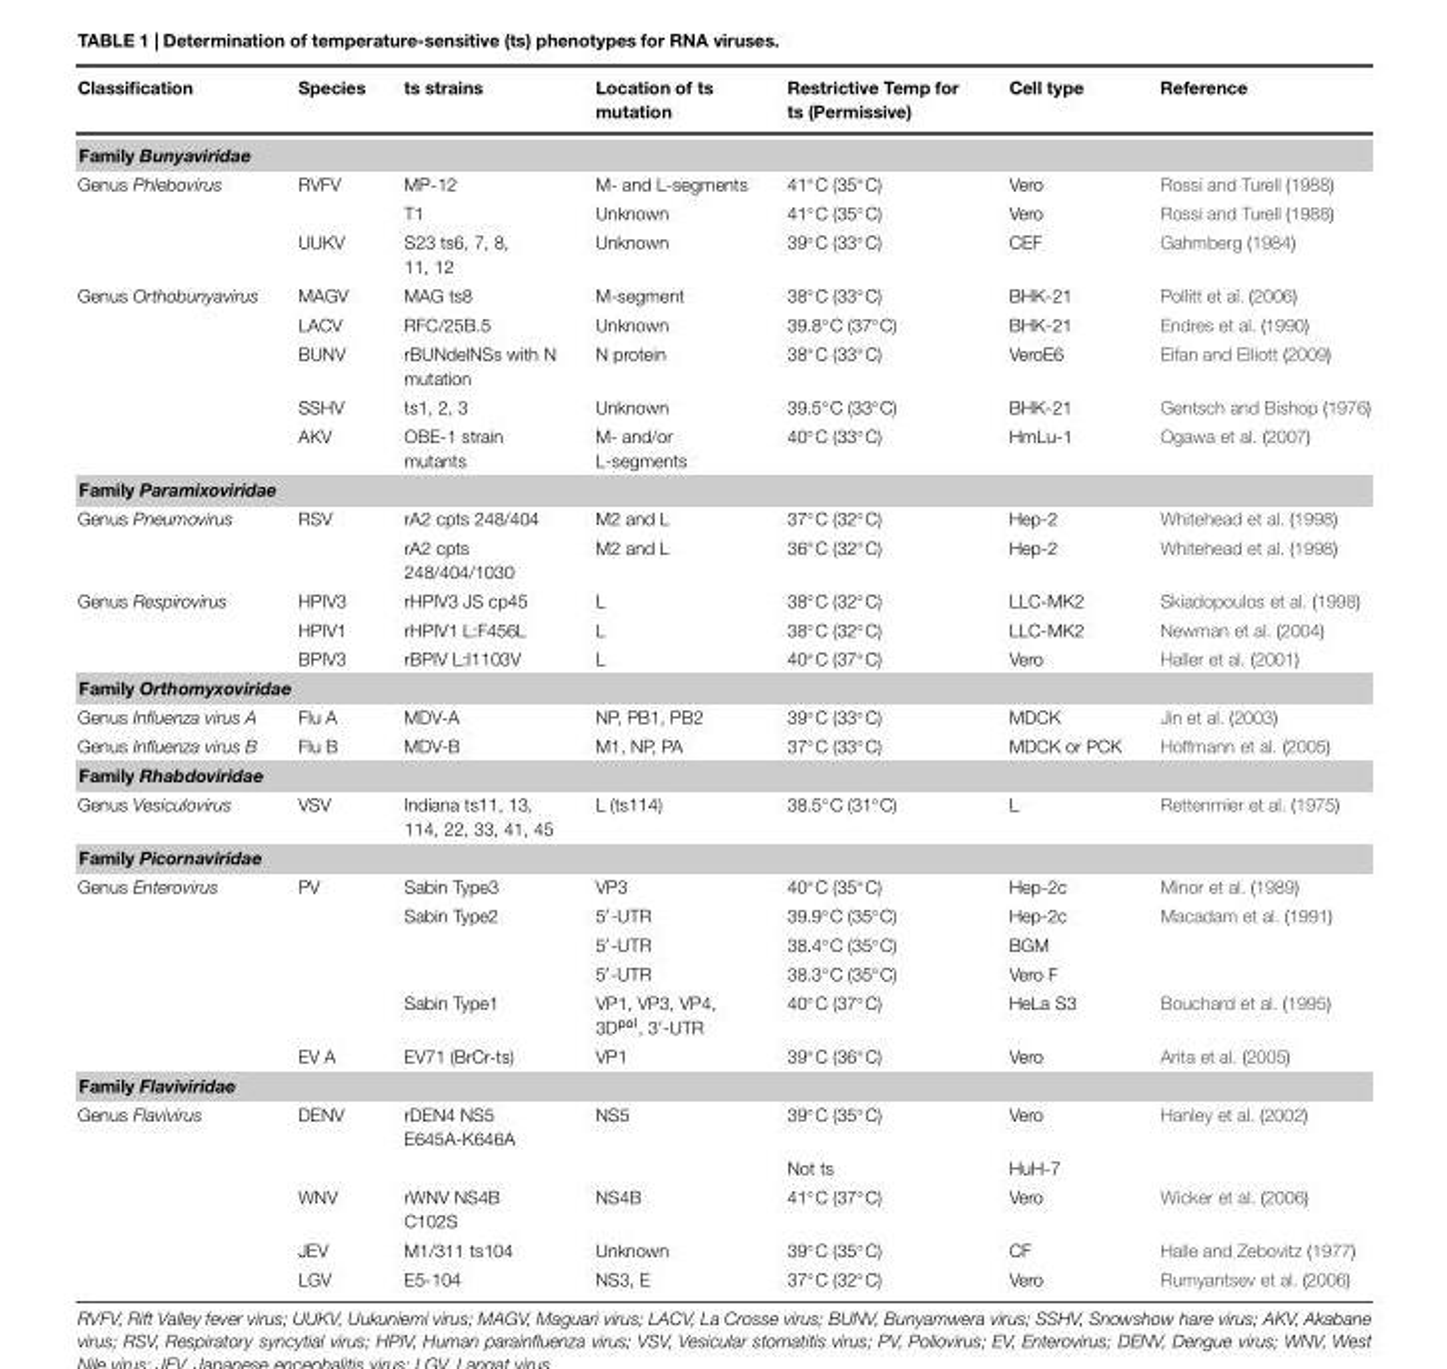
<table><thead><tr><td>Classification</td><td>Species</td><td>ts strains</td><td>Location of ts mutation</td><td>Restrictive Temp for ts (Permissive)</td><td>Cell type</td><td>Reference</td></tr></thead><tbody><tr><td colspan="7">Family Bunyaviridae</td></tr><tr><td rowspan="3">Genus Phlebovirus</td><td>RVFV</td><td>MP-12</td><td>M- and L-segments</td><td>41◦C (35◦C)</td><td>Vero</td><td>Rossi and Turell (1988)</td></tr><tr><td></td><td>T1</td><td>Unknown</td><td>41◦C (35◦C)</td><td>Vero</td><td>Rossi and Turell (1988)</td></tr><tr><td>UUKV</td><td>S23 ts6, 7, 8, 11, 12</td><td>Unknown</td><td>39◦C (33◦C)</td><td>CEF</td><td>Gahmberg (1984)</td></tr><tr><td rowspan="5">Genus Orthobunyavirus</td><td>MAGV</td><td>MAG ts8</td><td>M-segment</td><td>38◦C (33◦C)</td><td>BHK-21</td><td>Pollitt et al. (2006)</td></tr><tr><td>LACV</td><td>RFC/25B.5</td><td>Unknown</td><td>39.8◦C (37◦C)</td><td>BHK-21</td><td>Endres et al. (1990)</td></tr><tr><td>BUNV</td><td>rBUNdelNSs with N mutation</td><td>N protein</td><td>38◦C (33◦C)</td><td>VeroE6</td><td>Eifan and Elliott (2009)</td></tr><tr><td>SSHV</td><td>ts1, 2, 3</td><td>Unknown</td><td>39.5◦C (33◦C)</td><td>BHK-21</td><td>Gentsch and Bishop (1976)</td></tr><tr><td>AKV</td><td>OBE-1 strain mutants</td><td>M- and/or L-segments</td><td>40◦C (33◦C)</td><td>HmLu-1</td><td>Ogawa et al. (2007)</td></tr><tr><td colspan="7">Family Paramixoviridae</td></tr><tr><td rowspan="2">Genus Pneumovirus</td><td>RSV</td><td>rA2 cpts 248/404</td><td>M2 and L</td><td>37◦C (32◦C)</td><td>Hep-2</td><td>Whitehead et al. (1998)</td></tr><tr><td></td><td>rA2 cpts 248/404/1030</td><td>M2 and L</td><td>36◦C (32◦C)</td><td>Hep-2</td><td>Whitehead et al. (1998)</td></tr><tr><td rowspan="3">Genus Respirovirus</td><td>HPIV3</td><td>rHPIV3 JS cp45</td><td>L</td><td>38◦C (32◦C)</td><td>LLC-MK2</td><td>Skiadopoulos et al. (1998)</td></tr><tr><td>HPIV1</td><td>rHPIV1 L:F456L</td><td>L</td><td>38◦C (32◦C)</td><td>LLC-MK2</td><td>Newman et al. (2004)</td></tr><tr><td>BPIV3</td><td>rBPIV L:I1103V</td><td>L</td><td>40◦C (37◦C)</td><td>Vero</td><td>Haller et al. (2001)</td></tr><tr><td colspan="7">Family Orthomyxoviridae</td></tr><tr><td>Genus Influenza virus A</td><td>Flu A</td><td>MDV-A</td><td>NP, PB1, PB2</td><td>39◦C (33◦C)</td><td>MDCK</td><td>Jin et al. (2003)</td></tr><tr><td>Genus Influenza virus B</td><td>Flu B</td><td>MDV-B</td><td>M1, NP, PA</td><td>37◦C (33◦C)</td><td>MDCK or PCK</td><td>Hoffmann et al. (2005)</td></tr><tr><td colspan="7">Family Rhabdoviridae</td></tr><tr><td>Genus Vesiculovirus</td><td>VSV</td><td>Indiana ts11, 13, 114, 22, 33, 41, 45</td><td>L (ts114)</td><td>38.5◦C (31◦C)</td><td>L</td><td>Rettenmier et al. (1975)</td></tr><tr><td colspan="7">Family Picornaviridae</td></tr><tr><td rowspan="6">Genus Enterovirus</td><td>PV</td><td>Sabin Type3</td><td>VP3</td><td>40◦C (35◦C)</td><td>Hep-2c</td><td>Minor et al. (1989)</td></tr><tr><td></td><td>Sabin Type2</td><td>5′-UTR</td><td>39.9◦C (35◦C)</td><td>Hep-2c</td><td>Macadam et al. (1991)</td></tr><tr><td></td><td></td><td>5′-UTR</td><td>38.4◦C (35◦C)</td><td>BGM</td><td></td></tr><tr><td></td><td></td><td>5′-UTR</td><td>38.3◦C (35◦C)</td><td>Vero F</td><td></td></tr><tr><td></td><td>Sabin Type1</td><td>VP1, VP3, VP4, 3D<sup>pol</sup>, 3′-UTR</td><td>40◦C (37◦C)</td><td>HeLa S3</td><td>Bouchard et al. (1995)</td></tr><tr><td>EV A</td><td>EV71 (BrCr-ts)</td><td>VP1</td><td>39◦C (36◦C)</td><td>Vero</td><td>Arita et al. (2005)</td></tr><tr><td colspan="7">Family Flaviviridae</td></tr><tr><td rowspan="5">Genus Flavivirus</td><td>DENV</td><td>rDEN4 NS5 E645A-K646A</td><td>NS5</td><td>39◦C (35◦C)</td><td>Vero</td><td>Hanley et al. (2002)</td></tr><tr><td></td><td></td><td></td><td>Not ts</td><td>HuH-7</td><td></td></tr><tr><td>WNV</td><td>rWNV NS4B C102S</td><td>NS4B</td><td>41◦C (37◦C)</td><td>Vero</td><td>Wicker et al. (2006)</td></tr><tr><td>JEV</td><td>M1/311 ts104</td><td>Unknown</td><td>39◦C (35◦C)</td><td>CF</td><td>Halle and Zebovitz (1977)</td></tr><tr><td>LGV</td><td>E5-104</td><td>NS3, E</td><td>37◦C (32◦C)</td><td>Vero</td><td>Rumyantsev et al. (2006)</td></tr></tbody></table>